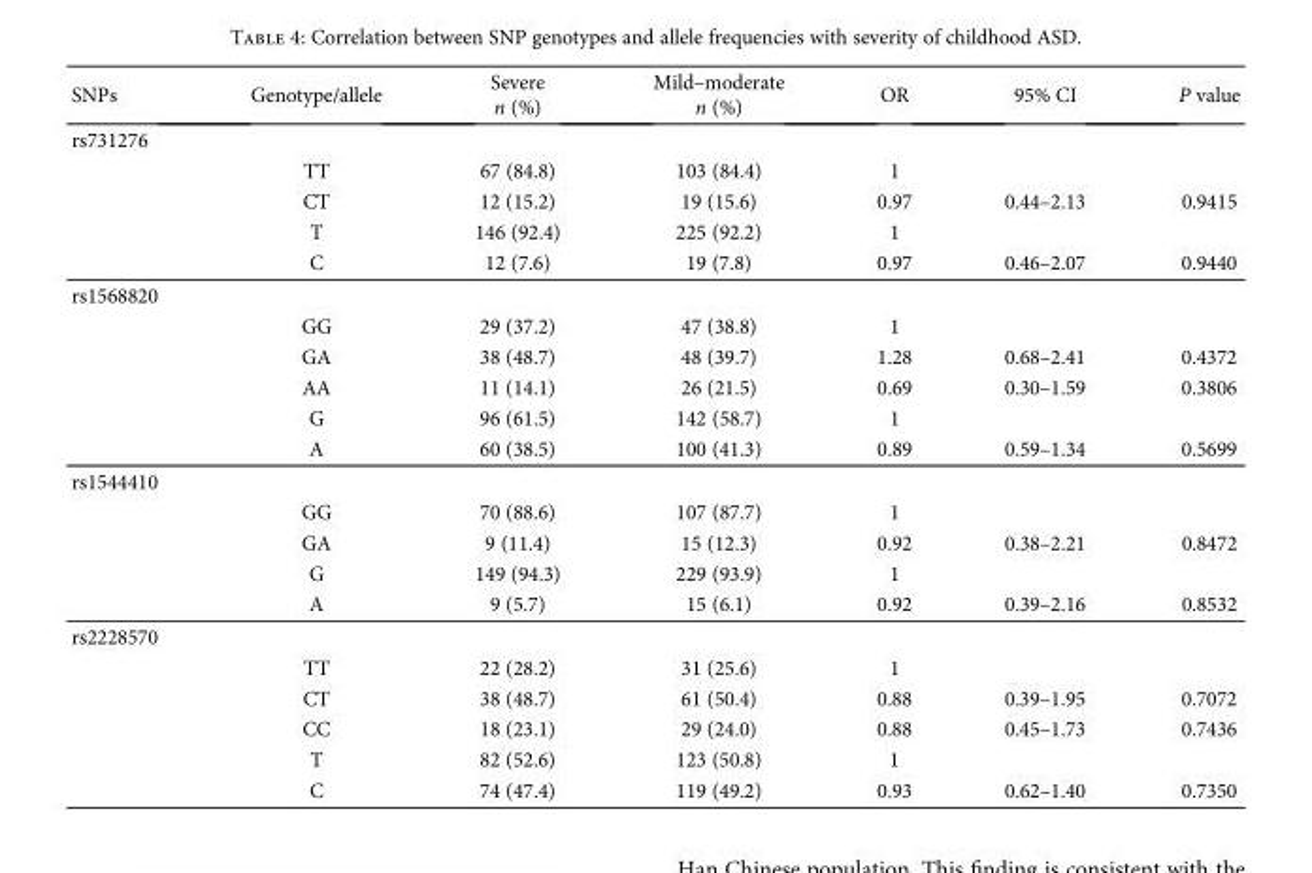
<table><thead><tr><td>SNPs</td><td>Genotype/allele</td><td>Severe n (%)</td><td>Mild–moderate n (%)</td><td>OR</td><td>95% CI</td><td>P value</td></tr></thead><tbody><tr><td colspan="7">rs731276</td></tr><tr><td rowspan="4"></td><td>TT</td><td>67 (84.8)</td><td>103 (84.4)</td><td>1</td><td></td><td></td></tr><tr><td>CT</td><td>12 (15.2)</td><td>19 (15.6)</td><td>0.97</td><td>0.44–2.13</td><td>0.9415</td></tr><tr><td>T</td><td>146 (92.4)</td><td>225 (92.2)</td><td>1</td><td></td><td></td></tr><tr><td>C</td><td>12 (7.6)</td><td>19 (7.8)</td><td>0.97</td><td>0.46–2.07</td><td>0.9440</td></tr><tr><td colspan="7">rs1568820</td></tr><tr><td rowspan="5"></td><td>GG</td><td>29 (37.2)</td><td>47 (38.8)</td><td>1</td><td></td><td></td></tr><tr><td>GA</td><td>38 (48.7)</td><td>48 (39.7)</td><td>1.28</td><td>0.68–2.41</td><td>0.4372</td></tr><tr><td>AA</td><td>11 (14.1)</td><td>26 (21.5)</td><td>0.69</td><td>0.30–1.59</td><td>0.3806</td></tr><tr><td>G</td><td>96 (61.5)</td><td>142 (58.7)</td><td>1</td><td></td><td></td></tr><tr><td>A</td><td>60 (38.5)</td><td>100 (41.3)</td><td>0.89</td><td>0.59–1.34</td><td>0.5699</td></tr><tr><td colspan="7">rs1544410</td></tr><tr><td rowspan="4"></td><td>GG</td><td>70 (88.6)</td><td>107 (87.7)</td><td>1</td><td></td><td></td></tr><tr><td>GA</td><td>9 (11.4)</td><td>15 (12.3)</td><td>0.92</td><td>0.38–2.21</td><td>0.8472</td></tr><tr><td>G</td><td>149 (94.3)</td><td>229 (93.9)</td><td>1</td><td></td><td></td></tr><tr><td>A</td><td>9 (5.7)</td><td>15 (6.1)</td><td>0.92</td><td>0.39–2.16</td><td>0.8532</td></tr><tr><td colspan="7">rs2228570</td></tr><tr><td rowspan="5"></td><td>TT</td><td>22 (28.2)</td><td>31 (25.6)</td><td>1</td><td></td><td></td></tr><tr><td>CT</td><td>38 (48.7)</td><td>61 (50.4)</td><td>0.88</td><td>0.39–1.95</td><td>0.7072</td></tr><tr><td>CC</td><td>18 (23.1)</td><td>29 (24.0)</td><td>0.88</td><td>0.45–1.73</td><td>0.7436</td></tr><tr><td>T</td><td>82 (52.6)</td><td>123 (50.8)</td><td>1</td><td></td><td></td></tr><tr><td>C</td><td>74 (47.4)</td><td>119 (49.2)</td><td>0.93</td><td>0.62–1.40</td><td>0.7350</td></tr></tbody></table>